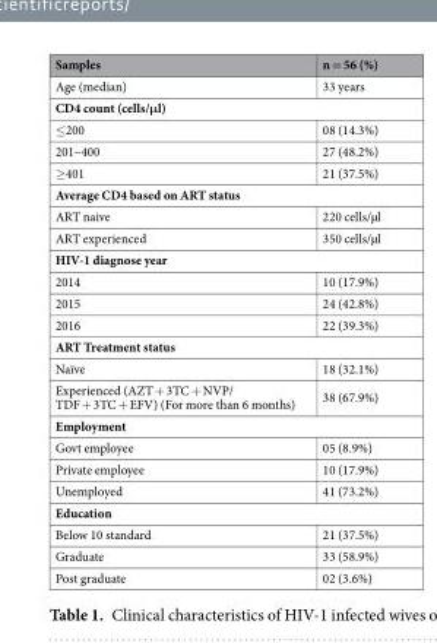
<table><thead><tr><td>Samples</td><td>n = 56 (%)</td></tr></thead><tbody><tr><td>Age (median)</td><td>33 years</td></tr><tr><td colspan="2">CD4 count (cells/μl)</td></tr><tr><td>≤200</td><td>08 (14.3%)</td></tr><tr><td>201–400</td><td>27 (48.2%)</td></tr><tr><td>≥401</td><td>21 (37.5%)</td></tr><tr><td colspan="2">Average CD4 based on ART status</td></tr><tr><td>ART naive</td><td>220 cells/µl</td></tr><tr><td>ART experienced</td><td>350 cells/µl</td></tr><tr><td colspan="2">HIV-1 diagnose year</td></tr><tr><td>2014</td><td>10 (17.9%)</td></tr><tr><td>2015</td><td>24 (42.8%)</td></tr><tr><td>2016</td><td>22 (39.3%)</td></tr><tr><td colspan="2">ART Treatment status</td></tr><tr><td>Naïve</td><td>18 (32.1%)</td></tr><tr><td>Experienced (AZT + 3TC + NVP/ TDF + 3TC + EFV) (For more than 6 months)</td><td>38 (67.9%)</td></tr><tr><td colspan="2">Employment</td></tr><tr><td>Govt employee</td><td>05 (8.9%)</td></tr><tr><td>Private employee</td><td>10 (17.9%)</td></tr><tr><td>Unemployed</td><td>41 (73.2%)</td></tr><tr><td colspan="2">Education</td></tr><tr><td>Below 10 standard</td><td>21 (37.5%)</td></tr><tr><td>Graduate</td><td>33 (58.9%)</td></tr><tr><td>Post graduate</td><td>02 (3.6%)</td></tr></tbody></table>